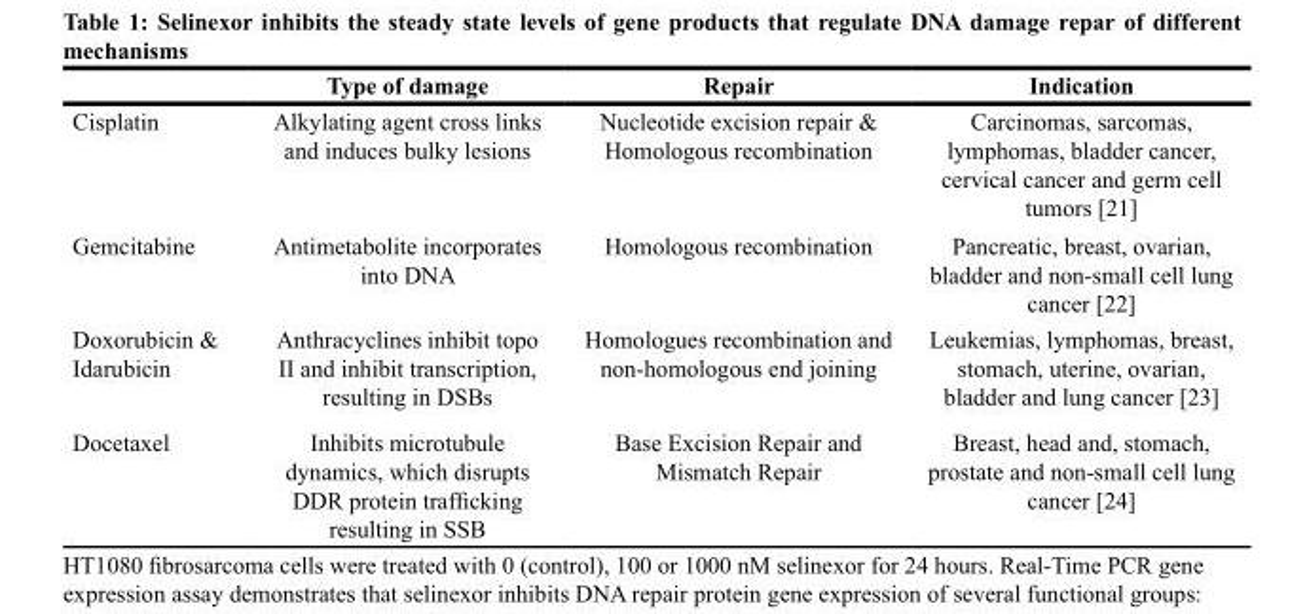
<table><thead><tr><td></td><td>Type of damage</td><td>Repair</td><td>Indication</td></tr></thead><tbody><tr><td>Cisplatin</td><td>Alkylating agent cross links and induces bulky lesions</td><td>Nucleotide excision repair &amp; Homologous recombination</td><td>Carcinomas, sarcomas, lymphomas, bladder cancer, cervical cancer and germ cell tumors [21]</td></tr><tr><td>Gemcitabine</td><td>Antimetabolite incorporates into DNA</td><td>Homologous recombination</td><td>Pancreatic, breast, ovarian, bladder and non-small cell lung cancer [22]</td></tr><tr><td>Doxorubicin &amp; Idarubicin</td><td>Anthracyclines inhibit topo II and inhibit transcription, resulting in DSBs</td><td>Homologues recombination and non-homologous end joining</td><td>Leukemias, lymphomas, breast, stomach, uterine, ovarian, bladder and lung cancer [23]</td></tr><tr><td>Docetaxel</td><td>Inhibits microtubule dynamics, which disrupts DDR protein trafficking resulting in SSB</td><td>Base Excision Repair and Mismatch Repair</td><td>Breast, head and, stomach, prostate and non-small cell lung cancer [24]</td></tr></tbody></table>